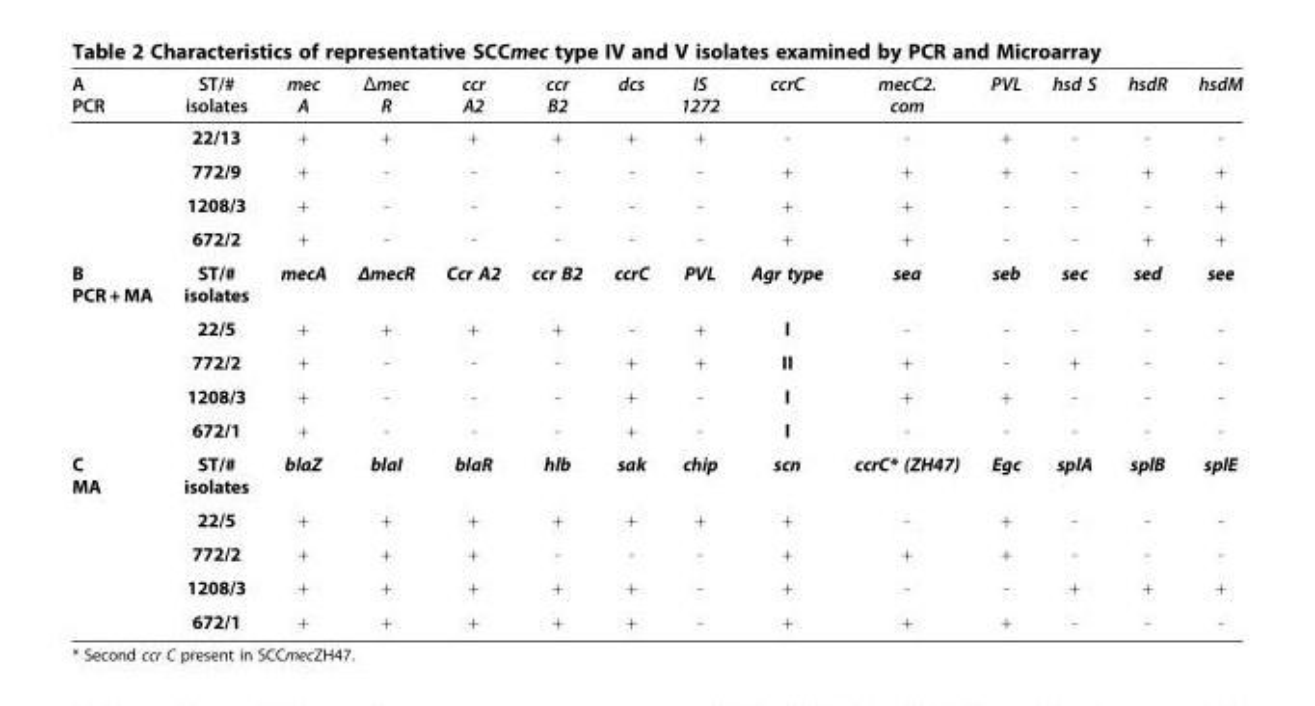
<table><thead><tr><td>A PCR</td><td>ST/# isolates</td><td>mec A</td><td>Δmec R</td><td>ccr A2</td><td>ccr B2</td><td>dcs</td><td>IS 1272</td><td>ccrC</td><td>mecC2. com</td><td>PVL</td><td>hsd S</td><td>hsdR</td><td>hsdM</td></tr></thead><tbody><tr><td></td><td>22/13</td><td>+</td><td>+</td><td>+</td><td>+</td><td>+</td><td>+</td><td>-</td><td>-</td><td>+</td><td>-</td><td>-</td><td>-</td></tr><tr><td></td><td>772/9</td><td>+</td><td>-</td><td>-</td><td>-</td><td>-</td><td>-</td><td>+</td><td>+</td><td>+</td><td>-</td><td>+</td><td>+</td></tr><tr><td></td><td>1208/3</td><td>+</td><td>-</td><td>-</td><td>-</td><td>-</td><td>-</td><td>+</td><td>+</td><td>-</td><td>-</td><td>-</td><td>+</td></tr><tr><td></td><td>672/2</td><td>+</td><td>-</td><td>-</td><td>-</td><td>-</td><td>-</td><td>+</td><td>+</td><td>-</td><td>-</td><td>+</td><td>+</td></tr><tr><td rowspan="5">B PCR + MA</td><td>ST/# isolates</td><td>mecA</td><td>ΔmecR</td><td>Ccr A2</td><td>ccr B2</td><td>ccrC</td><td>PVL</td><td>Agr type</td><td>sea</td><td>seb</td><td>sec</td><td>sed</td><td>see</td></tr><tr><td>22/5</td><td>+</td><td>+</td><td>+</td><td>+</td><td>-</td><td>+</td><td>I</td><td>-</td><td>-</td><td>-</td><td>-</td><td>-</td></tr><tr><td>772/2</td><td>+</td><td>-</td><td>-</td><td>-</td><td>+</td><td>+</td><td>II</td><td>+</td><td>-</td><td>+</td><td>-</td><td>-</td></tr><tr><td>1208/3</td><td>+</td><td>-</td><td>-</td><td>-</td><td>+</td><td>-</td><td>I</td><td>+</td><td>+</td><td>-</td><td>-</td><td>-</td></tr><tr><td>672/1</td><td>+</td><td>-</td><td>-</td><td>-</td><td>+</td><td>-</td><td>I</td><td>-</td><td>-</td><td>-</td><td>-</td><td>-</td></tr><tr><td rowspan="5">C MA</td><td>ST/# isolates</td><td>blaZ</td><td>blaI</td><td>blaR</td><td>hlb</td><td>sak</td><td>chip</td><td>scn</td><td>ccrC* (ZH47)</td><td>Egc</td><td>splA</td><td>splB</td><td>splE</td></tr><tr><td>22/5</td><td>+</td><td>+</td><td>+</td><td>+</td><td>+</td><td>+</td><td>+</td><td>-</td><td>+</td><td>-</td><td>-</td><td>-</td></tr><tr><td>772/2</td><td>+</td><td>+</td><td>+</td><td>-</td><td>-</td><td>-</td><td>+</td><td>+</td><td>+</td><td>-</td><td>-</td><td>-</td></tr><tr><td>1208/3</td><td>+</td><td>+</td><td>+</td><td>+</td><td>+</td><td>-</td><td>+</td><td>-</td><td>-</td><td>+</td><td>+</td><td>+</td></tr><tr><td>672/1</td><td>+</td><td>+</td><td>+</td><td>+</td><td>+</td><td>-</td><td>+</td><td>+</td><td>+</td><td>-</td><td>-</td><td>-</td></tr></tbody></table>